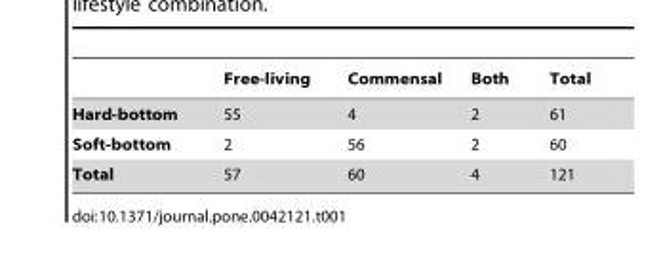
<table><thead><tr><td></td><td>Free-living</td><td>Commensal</td><td>Both</td><td>Total</td></tr></thead><tbody><tr><td>Hard-bottom</td><td>55</td><td>4</td><td>2</td><td>61</td></tr><tr><td>Soft-bottom</td><td>2</td><td>56</td><td>2</td><td>60</td></tr><tr><td>Total</td><td>57</td><td>60</td><td>4</td><td>121</td></tr></tbody></table>